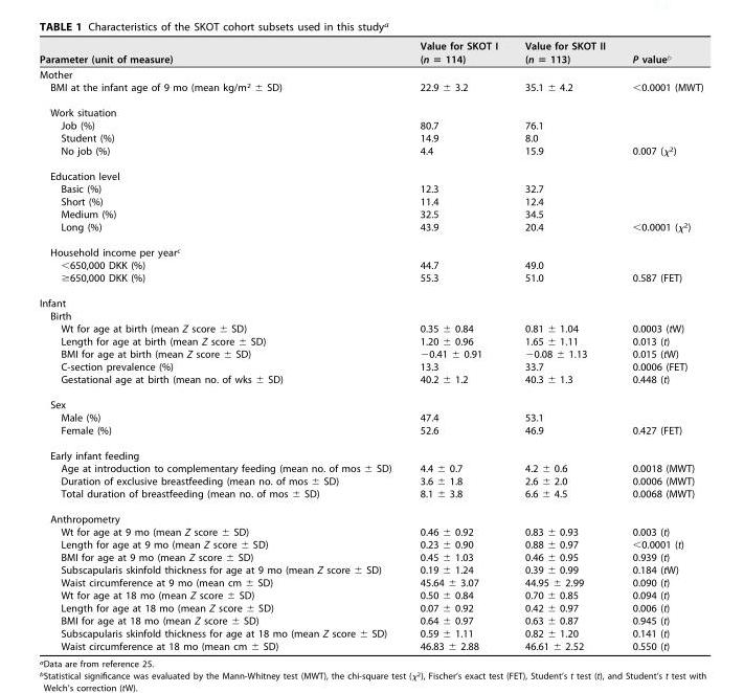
<table><thead><tr><td>Parameter (unit of measure)</td><td>Value for SKOT I (n = 114)</td><td>Value for SKOT II (n = 113)</td><td>P value<sup>b</sup></td></tr></thead><tbody><tr><td colspan="4">Mother</td></tr><tr><td>BMI at the infant age of 9 mo (mean kg/m<sup>2</sup> ± SD)</td><td>22.9 ± 3.2</td><td>35.1 ± 4.2</td><td>&lt;0.0001 (MWT)</td></tr><tr><td colspan="4">Work situation</td></tr><tr><td>Job (%)</td><td>80.7</td><td>76.1</td><td></td></tr><tr><td>Student (%)</td><td>14.9</td><td>8.0</td><td></td></tr><tr><td>No job (%)</td><td>4.4</td><td>15.9</td><td>0.007 (χ<sup>2</sup>)</td></tr><tr><td colspan="4">Education level</td></tr><tr><td>Basic (%)</td><td>12.3</td><td>32.7</td><td></td></tr><tr><td>Short (%)</td><td>11.4</td><td>12.4</td><td></td></tr><tr><td>Medium (%)</td><td>32.5</td><td>34.5</td><td></td></tr><tr><td>Long (%)</td><td>43.9</td><td>20.4</td><td>&lt;0.0001 (χ<sup>2</sup>)</td></tr><tr><td colspan="4">Household income per year<sup>c</sup></td></tr><tr><td>&lt;650,000 DKK (%)</td><td>44.7</td><td>49.0</td><td></td></tr><tr><td>≥650,000 DKK (%)</td><td>55.3</td><td>51.0</td><td>0.587 (FET)</td></tr><tr><td colspan="4">Infant</td></tr><tr><td colspan="4">Birth</td></tr><tr><td>Wt for age at birth (mean Z score ± SD)</td><td>0.35 ± 0.84</td><td>0.81 ± 1.04</td><td>0.0003 (tW)</td></tr><tr><td>Length for age at birth (mean Z score ± SD)</td><td>1.20 ± 0.96</td><td>1.65 ± 1.11</td><td>0.013 (t)</td></tr><tr><td>BMI for age at birth (mean Z score ± SD)</td><td>−0.41 ± 0.91</td><td>−0.08 ± 1.13</td><td>0.015 (tW)</td></tr><tr><td>C-section prevalence (%)</td><td>13.3</td><td>33.7</td><td>0.0006 (FET)</td></tr><tr><td>Gestational age at birth (mean no. of wks ± SD)</td><td>40.2 ± 1.2</td><td>40.3 ± 1.3</td><td>0.448 (t)</td></tr><tr><td colspan="4">Sex</td></tr><tr><td>Male (%)</td><td>47.4</td><td>53.1</td><td></td></tr><tr><td>Female (%)</td><td>52.6</td><td>46.9</td><td>0.427 (FET)</td></tr><tr><td colspan="4">Early infant feeding</td></tr><tr><td>Age at introduction to complementary feeding (mean no. of mos ± SD)</td><td>4.4 ± 0.7</td><td>4.2 ± 0.6</td><td>0.0018 (MWT)</td></tr><tr><td>Duration of exclusive breastfeeding (mean no. of mos ± SD)</td><td>3.6 ± 1.8</td><td>2.6 ± 2.0</td><td>0.0006 (MWT)</td></tr><tr><td>Total duration of breastfeeding (mean no. of mos ± SD)</td><td>8.1 ± 3.8</td><td>6.6 ± 4.5</td><td>0.0068 (MWT)</td></tr><tr><td colspan="4">Anthropometry</td></tr><tr><td>Wt for age at 9 mo (mean Z score ± SD)</td><td>0.46 ± 0.92</td><td>0.83 ± 0.93</td><td>0.003 (t)</td></tr><tr><td>Length for age at 9 mo (mean Z score ± SD)</td><td>0.23 ± 0.90</td><td>0.88 ± 0.97</td><td>&lt;0.0001 (t)</td></tr><tr><td>BMI for age at 9 mo (mean Z score ± SD)</td><td>0.45 ± 1.03</td><td>0.46 ± 0.95</td><td>0.939 (t)</td></tr><tr><td>Subscapularis skinfold thickness for age at 9 mo (mean Z score ± SD)</td><td>0.19 ± 1.24</td><td>0.39 ± 0.99</td><td>0.184 (tW)</td></tr><tr><td>Waist circumference at 9 mo (mean cm ± SD)</td><td>45.64 ± 3.07</td><td>44.95 ± 2.99</td><td>0.090 (t)</td></tr><tr><td>Wt for age at 18 mo (mean Z score ± SD)</td><td>0.50 ± 0.84</td><td>0.70 ± 0.85</td><td>0.094 (t)</td></tr><tr><td>Length for age at 18 mo (mean Z score ± SD)</td><td>0.07 ± 0.92</td><td>0.42 ± 0.97</td><td>0.006 (t)</td></tr><tr><td>BMI for age at 18 mo (mean Z score ± SD)</td><td>0.64 ± 0.97</td><td>0.63 ± 0.87</td><td>0.945 (t)</td></tr><tr><td>Subscapularis skinfold thickness for age at 18 mo (mean Z score ± SD)</td><td>0.59 ± 1.11</td><td>0.82 ± 1.20</td><td>0.141 (t)</td></tr><tr><td>Waist circumference at 18 mo (mean cm ± SD)</td><td>46.83 ± 2.88</td><td>46.61 ± 2.52</td><td>0.550 (t)</td></tr></tbody></table>